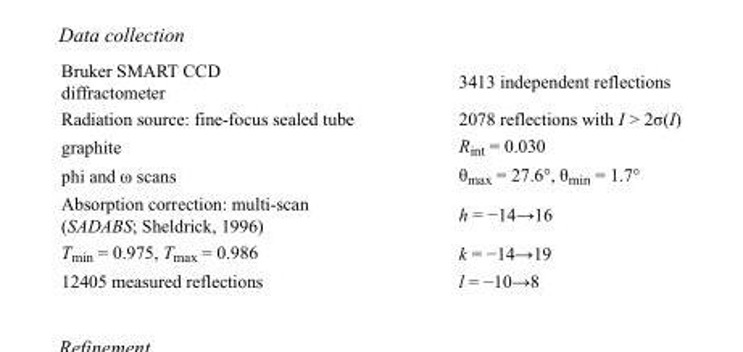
<table><tbody><tr><td>Bruker SMART CCD diffractometer</td><td>3413 independent reflections</td></tr><tr><td>Radiation source: fine-focus sealed tube</td><td>2078 reflections with I &gt; 2σ(I)</td></tr><tr><td>graphite</td><td>R<sub>int</sub> = 0.030</td></tr><tr><td>phi and ω scans</td><td>θ<sub>max</sub> = 27.6°, θ<sub>min</sub> = 1.7°</td></tr><tr><td>Absorption correction: multi-scan (SADABS; Sheldrick, 1996)</td><td>h = −14→16</td></tr><tr><td>T<sub>min</sub> = 0.975, T<sub>max</sub> = 0.986</td><td>k = −14→19</td></tr><tr><td>12405 measured reflections</td><td>l = −10→8</td></tr></tbody></table>